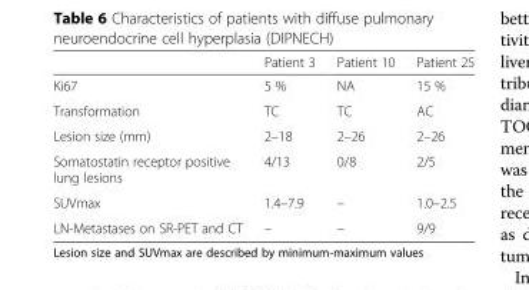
<table><thead><tr><td></td><td>Patient 3</td><td>Patient 10</td><td>Patient 25</td></tr></thead><tbody><tr><td>Ki67</td><td>5 %</td><td>NA</td><td>15 %</td></tr><tr><td>Transformation</td><td>TC</td><td>TC</td><td>AC</td></tr><tr><td>Lesion size (mm)</td><td>2–18</td><td>2–26</td><td>2–26</td></tr><tr><td>Somatostatin receptor positive lung lesions</td><td>4/13</td><td>0/8</td><td>2/5</td></tr><tr><td>SUVmax</td><td>1.4–7.9</td><td>–</td><td>1.0–2.5</td></tr><tr><td>LN-Metastases on SR-PET and CT</td><td>–</td><td>–</td><td>9/9</td></tr></tbody></table>